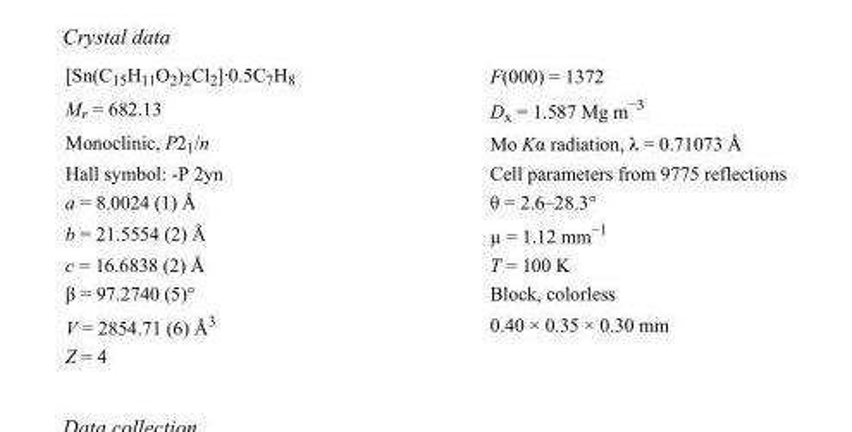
<table><tbody><tr><td>[Sn(C<sub>15</sub>H<sub>11</sub>O<sub>2</sub>)<sub>2</sub>Cl<sub>2</sub>]·0.5C<sub>7</sub>H<sub>8</sub></td><td>F(000) = 1372</td></tr><tr><td>M<sub>r</sub> = 682.13</td><td>D<sub>x</sub> = 1.587 Mg m<sup>−3</sup></td></tr><tr><td>Monoclinic, P2<sub>1</sub>/n</td><td>Mo Kα radiation, λ = 0.71073 Å</td></tr><tr><td>Hall symbol: -P 2yn</td><td>Cell parameters from 9775 reflections</td></tr><tr><td>a = 8.0024 (1) Å</td><td>θ = 2.6–28.3°</td></tr><tr><td>b = 21.5554 (2) Å</td><td>µ = 1.12 mm<sup>−1</sup></td></tr><tr><td>c = 16.6838 (2) Å</td><td>T = 100 K</td></tr><tr><td>β = 97.2740 (5)°</td><td>Block, colorless</td></tr><tr><td>V = 2854.71 (6) Å<sup>3</sup></td><td>0.40 × 0.35 × 0.30 mm</td></tr><tr><td>Z = 4</td><td></td></tr></tbody></table>